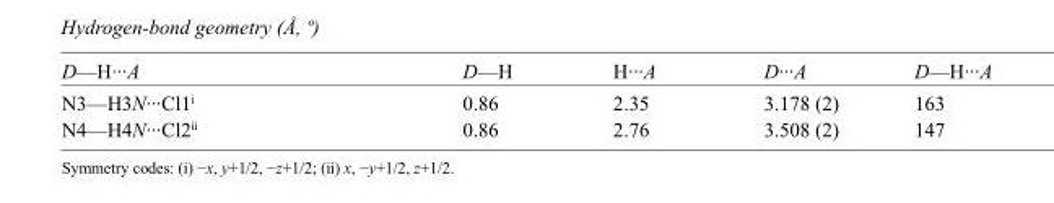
<table><tbody><tr><td>D—H···A</td><td>D—H</td><td>H···A</td><td>D···A</td><td>D—H···A</td></tr><tr><td>N3—H3N···Cl1<sup>i</sup></td><td>0.86</td><td>2.35</td><td>3.178 (2)</td><td>163</td></tr><tr><td>N4—H4N···Cl2<sup>ii</sup></td><td>0.86</td><td>2.76</td><td>3.508 (2)</td><td>147</td></tr></tbody></table>